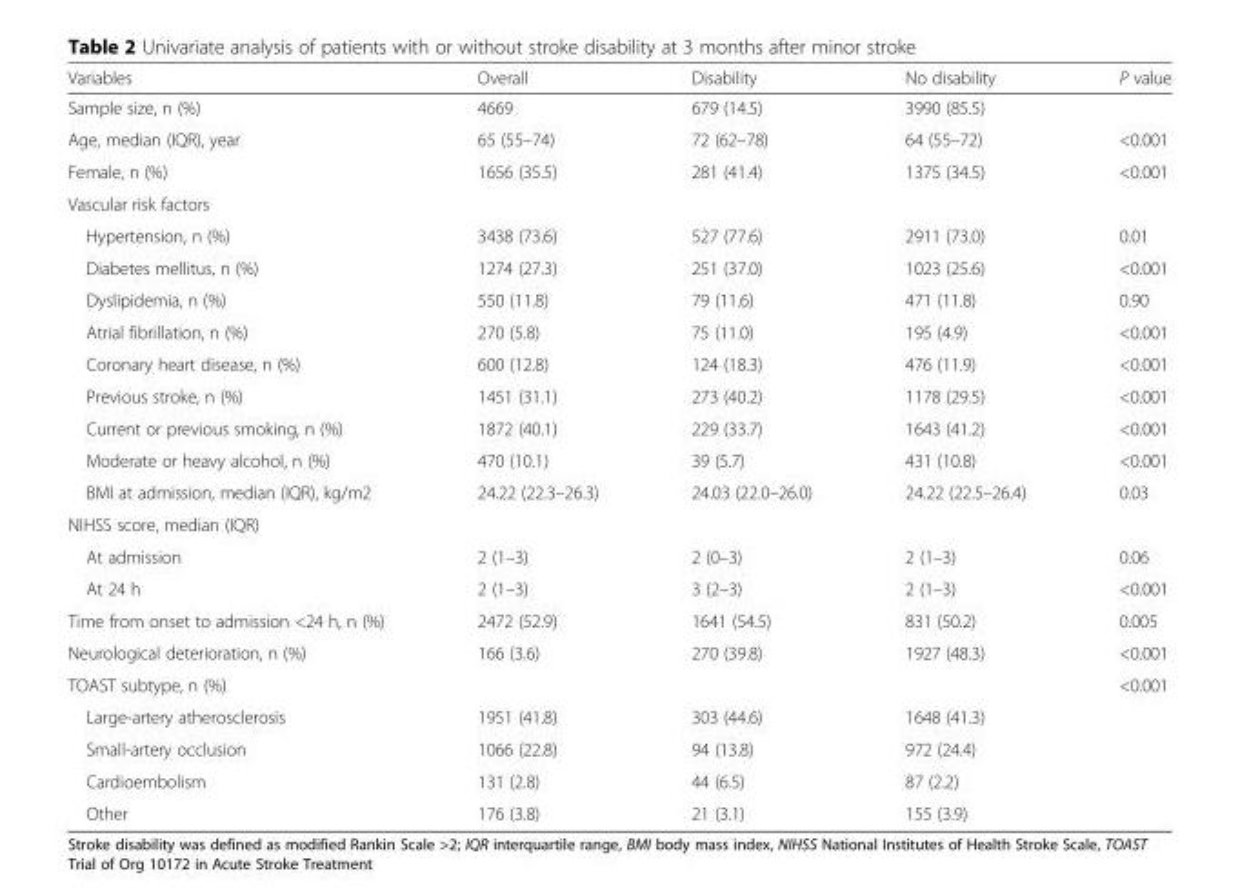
<table><thead><tr><td>Variables</td><td>Overall</td><td>Disability</td><td>No disability</td><td>P value</td></tr></thead><tbody><tr><td>Sample size, n (%)</td><td>4669</td><td>679 (14.5)</td><td>3990 (85.5)</td><td></td></tr><tr><td>Age, median (IQR), year</td><td>65 (55–74)</td><td>72 (62–78)</td><td>64 (55–72)</td><td>&lt;0.001</td></tr><tr><td>Female, n (%)</td><td>1656 (35.5)</td><td>281 (41.4)</td><td>1375 (34.5)</td><td>&lt;0.001</td></tr><tr><td colspan="5">Vascular risk factors</td></tr><tr><td>Hypertension, n (%)</td><td>3438 (73.6)</td><td>527 (77.6)</td><td>2911 (73.0)</td><td>0.01</td></tr><tr><td>Diabetes mellitus, n (%)</td><td>1274 (27.3)</td><td>251 (37.0)</td><td>1023 (25.6)</td><td>&lt;0.001</td></tr><tr><td>Dyslipidemia, n (%)</td><td>550 (11.8)</td><td>79 (11.6)</td><td>471 (11.8)</td><td>0.90</td></tr><tr><td>Atrial fibrillation, n (%)</td><td>270 (5.8)</td><td>75 (11.0)</td><td>195 (4.9)</td><td>&lt;0.001</td></tr><tr><td>Coronary heart disease, n (%)</td><td>600 (12.8)</td><td>124 (18.3)</td><td>476 (11.9)</td><td>&lt;0.001</td></tr><tr><td>Previous stroke, n (%)</td><td>1451 (31.1)</td><td>273 (40.2)</td><td>1178 (29.5)</td><td>&lt;0.001</td></tr><tr><td>Current or previous smoking, n (%)</td><td>1872 (40.1)</td><td>229 (33.7)</td><td>1643 (41.2)</td><td>&lt;0.001</td></tr><tr><td>Moderate or heavy alcohol, n (%)</td><td>470 (10.1)</td><td>39 (5.7)</td><td>431 (10.8)</td><td>&lt;0.001</td></tr><tr><td>BMI at admission, median (IQR), kg/m2</td><td>24.22 (22.3–26.3)</td><td>24.03 (22.0–26.0)</td><td>24.22 (22.5–26.4)</td><td>0.03</td></tr><tr><td colspan="5">NIHSS score, median (IQR)</td></tr><tr><td>At admission</td><td>2 (1–3)</td><td>2 (0–3)</td><td>2 (1–3)</td><td>0.06</td></tr><tr><td>At 24 h</td><td>2 (1–3)</td><td>3 (2–3)</td><td>2 (1–3)</td><td>&lt;0.001</td></tr><tr><td>Time from onset to admission &lt;24 h, n (%)</td><td>2472 (52.9)</td><td>1641 (54.5)</td><td>831 (50.2)</td><td>0.005</td></tr><tr><td>Neurological deterioration, n (%)</td><td>166 (3.6)</td><td>270 (39.8)</td><td>1927 (48.3)</td><td>&lt;0.001</td></tr><tr><td>TOAST subtype, n (%)</td><td></td><td></td><td></td><td>&lt;0.001</td></tr><tr><td>Large-artery atherosclerosis</td><td>1951 (41.8)</td><td>303 (44.6)</td><td>1648 (41.3)</td><td></td></tr><tr><td>Small-artery occlusion</td><td>1066 (22.8)</td><td>94 (13.8)</td><td>972 (24.4)</td><td></td></tr><tr><td>Cardioembolism</td><td>131 (2.8)</td><td>44 (6.5)</td><td>87 (2.2)</td><td></td></tr><tr><td>Other</td><td>176 (3.8)</td><td>21 (3.1)</td><td>155 (3.9)</td><td></td></tr></tbody></table>